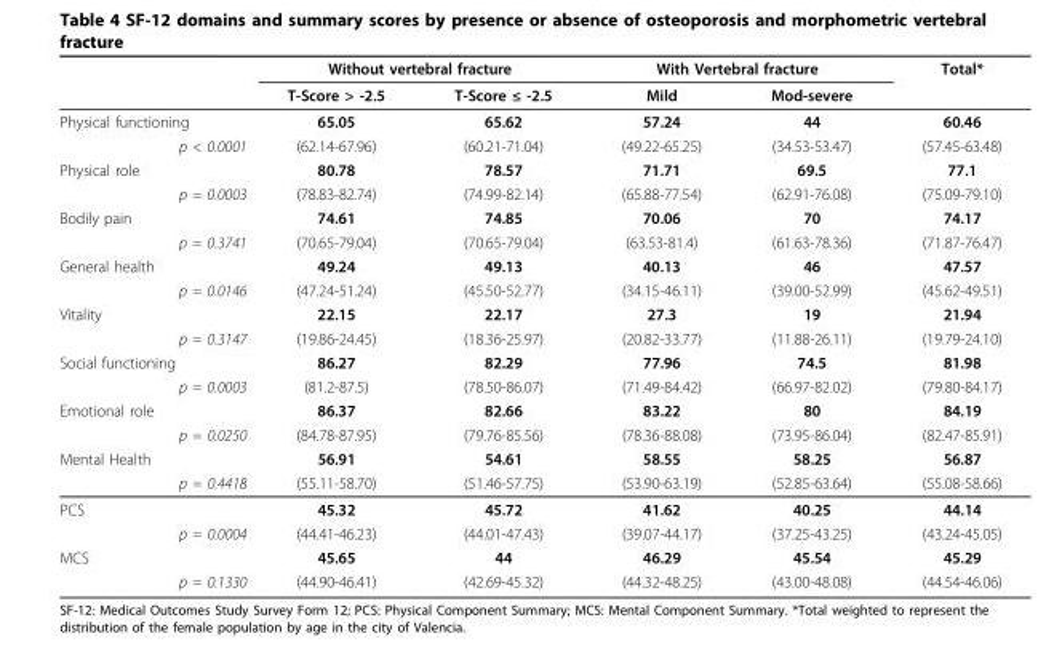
<table><thead><tr><td rowspan="2"></td><td colspan="2">Without vertebral fracture</td><td colspan="2">With Vertebral fracture</td><td rowspan="2">Total*</td></tr><tr><td>T-Score &gt; -2.5</td><td>T-Score ≤ -2.5</td><td>Mild</td><td>Mod-severe</td></tr></thead><tbody><tr><td>Physical functioning</td><td>65.05</td><td>65.62</td><td>57.24</td><td>44</td><td>60.46</td></tr><tr><td>p &lt; 0.0001</td><td>(62.14-67.96)</td><td>(60.21-71.04)</td><td>(49.22-65.25)</td><td>(34.53-53.47)</td><td>(57.45-63.48)</td></tr><tr><td>Physical role</td><td>80.78</td><td>78.57</td><td>71.71</td><td>69.5</td><td>77.1</td></tr><tr><td>p = 0.0003</td><td>(78.83-82.74)</td><td>(74.99-82.14)</td><td>(65.88-77.54)</td><td>(62.91-76.08)</td><td>(75.09-79.10)</td></tr><tr><td>Bodily pain</td><td>74.61</td><td>74.85</td><td>70.06</td><td>70</td><td>74.17</td></tr><tr><td>p = 0.3741</td><td>(70.65-79.04)</td><td>(70.65-79.04)</td><td>(63.53-81.4)</td><td>(61.63-78.36)</td><td>(71.87-76.47)</td></tr><tr><td>General health</td><td>49.24</td><td>49.13</td><td>40.13</td><td>46</td><td>47.57</td></tr><tr><td>p = 0.0146</td><td>(47.24-51.24)</td><td>(45.50-52.77)</td><td>(34.15-46.11)</td><td>(39.00-52.99)</td><td>(45.62-49.51)</td></tr><tr><td>Vitality</td><td>22.15</td><td>22.17</td><td>27.3</td><td>19</td><td>21.94</td></tr><tr><td>p = 0.3147</td><td>(19.86-24.45)</td><td>(18.36-25.97)</td><td>(20.82-33.77)</td><td>(11.88-26.11)</td><td>(19.79-24.10)</td></tr><tr><td>Social functioning</td><td>86.27</td><td>82.29</td><td>77.96</td><td>74.5</td><td>81.98</td></tr><tr><td>p = 0.0003</td><td>(81.2-87.5)</td><td>(78.50-86.07)</td><td>(71.49-84.42)</td><td>(66.97-82.02)</td><td>(79.80-84.17)</td></tr><tr><td>Emotional role</td><td>86.37</td><td>82.66</td><td>83.22</td><td>80</td><td>84.19</td></tr><tr><td>p = 0.0250</td><td>(84.78-87.95)</td><td>(79.76-85.56)</td><td>(78.36-88.08)</td><td>(73.95-86.04)</td><td>(82.47-85.91)</td></tr><tr><td>Mental Health</td><td>56.91</td><td>54.61</td><td>58.55</td><td>58.25</td><td>56.87</td></tr><tr><td>p = 0.4418</td><td>(55.11-58.70)</td><td>(51.46-57.75)</td><td>(53.90-63.19)</td><td>(52.85-63.64)</td><td>(55.08-58.66)</td></tr><tr><td>PCS</td><td>45.32</td><td>45.72</td><td>41.62</td><td>40.25</td><td>44.14</td></tr><tr><td>p = 0.0004</td><td>(44.41-46.23)</td><td>(44.01-47.43)</td><td>(39.07-44.17)</td><td>(37.25-43.25)</td><td>(43.24-45.05)</td></tr><tr><td>MCS</td><td>45.65</td><td>44</td><td>46.29</td><td>45.54</td><td>45.29</td></tr><tr><td>p = 0.1330</td><td>(44.90-46.41)</td><td>(42.69-45.32)</td><td>(44.32-48.25)</td><td>(43.00-48.08)</td><td>(44.54-46.06)</td></tr></tbody></table>